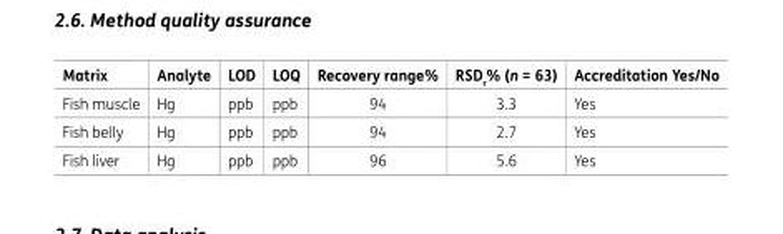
<table><tbody><tr><td>Matrix</td><td>Analyte</td><td>LOD</td><td>LOQ</td><td>Recovery range%</td><td>RSD<sub>r</sub>% (n = 63)</td><td>Accreditation Yes/No</td></tr><tr><td>Fish muscle</td><td>Hg</td><td>ppb</td><td>ppb</td><td>94</td><td>3.3</td><td>Yes</td></tr><tr><td>Fish belly</td><td>Hg</td><td>ppb</td><td>ppb</td><td>94</td><td>2.7</td><td>Yes</td></tr><tr><td>Fish liver</td><td>Hg</td><td>ppb</td><td>ppb</td><td>96</td><td>5.6</td><td>Yes</td></tr></tbody></table>